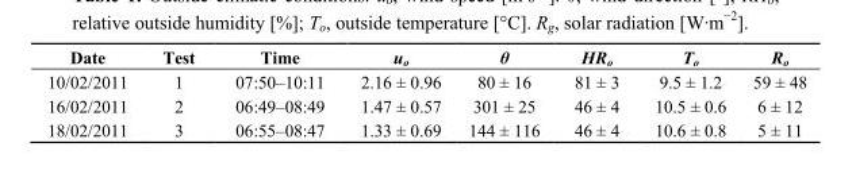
<table><thead><tr><td>Date</td><td>Test</td><td>Time</td><td>u<sub>o</sub></td><td>θ</td><td>HR<sub>o</sub></td><td>T<sub>o</sub></td><td>R<sub>o</sub></td></tr></thead><tbody><tr><td>10/02/2011</td><td>1</td><td>07:50–10:11</td><td>2.16 ± 0.96</td><td>80 ± 16</td><td>81 ± 3</td><td>9.5 ± 1.2</td><td>59 ± 48</td></tr><tr><td>16/02/2011</td><td>2</td><td>06:49–08:49</td><td>1.47 ± 0.57</td><td>301 ± 25</td><td>46 ± 4</td><td>10.5 ± 0.6</td><td>6 ± 12</td></tr><tr><td>18/02/2011</td><td>3</td><td>06:55–08:47</td><td>1.33 ± 0.69</td><td>144 ± 116</td><td>46 ± 4</td><td>10.6 ± 0.8</td><td>5 ± 11</td></tr></tbody></table>